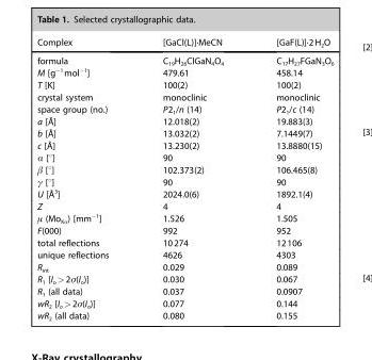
<table><thead><tr><td>Complex</td><td>[GaCl(L)]·MeCN</td><td>[GaF(L)]·2H2O</td></tr></thead><tbody><tr><td>formula</td><td>C<sub>19</sub>H<sub>26</sub>ClGaN<sub>4</sub>O<sub>4</sub></td><td>C<sub>17</sub>H<sub>27</sub>FGaN<sub>3</sub>O<sub>6</sub></td></tr><tr><td>M [g<sup>−1</sup>mol<sup>−1</sup>]</td><td>479.61</td><td>458.14</td></tr><tr><td>T [K]</td><td>100(2)</td><td>100(2)</td></tr><tr><td>crystal system</td><td>monoclinic</td><td>monoclinic</td></tr><tr><td>space group (no.)</td><td>P2<sub>1</sub>/n (14)</td><td>P2<sub>1</sub>/c (14)</td></tr><tr><td>a [Å]</td><td>12.018(2)</td><td>19.883(3)</td></tr><tr><td>b [Å]</td><td>13.032(2)</td><td>7.1449(7)</td></tr><tr><td>c [Å]</td><td>13.230(2)</td><td>13.8880(15)</td></tr><tr><td>α [°]</td><td>90</td><td>90</td></tr><tr><td>β [°]</td><td>102.373(2)</td><td>106.465(8)</td></tr><tr><td>γ [°]</td><td>90</td><td>90</td></tr><tr><td>U [Å<sup>3</sup>]</td><td>2024.0(6)</td><td>1892.1(4)</td></tr><tr><td>Z</td><td>4</td><td>4</td></tr><tr><td>μ (Mo<sub>Kα</sub>) [mm<sup>−1</sup>]</td><td>1.526</td><td>1.505</td></tr><tr><td>F(000)</td><td>992</td><td>952</td></tr><tr><td>total reflections</td><td>10274</td><td>12106</td></tr><tr><td>unique reflections</td><td>4626</td><td>4303</td></tr><tr><td>R<sub>int</sub></td><td>0.029</td><td>0.089</td></tr><tr><td>R<sub>1</sub> [I<sub>o</sub>&gt;2σ(I<sub>o</sub>)]</td><td>0.030</td><td>0.067</td></tr><tr><td>R<sub>1</sub> (all data)</td><td>0.037</td><td>0.0907</td></tr><tr><td>wR<sub>2</sub> [I<sub>o</sub>&gt;2σ(I<sub>o</sub>)]</td><td>0.077</td><td>0.144</td></tr><tr><td>wR<sub>2</sub> (all data)</td><td>0.080</td><td>0.155</td></tr></tbody></table>